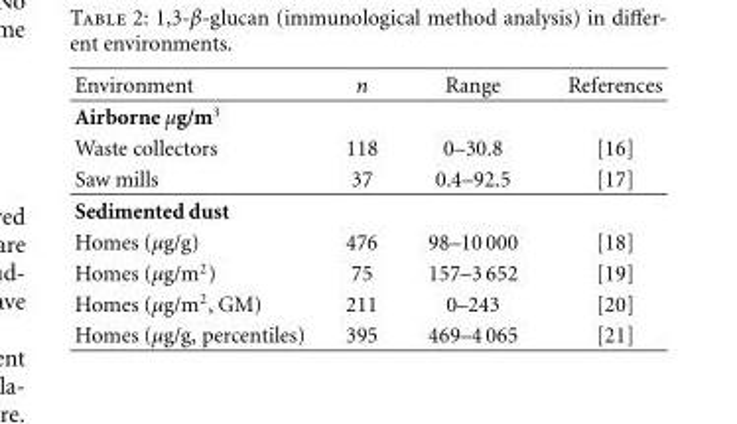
<table><thead><tr><td>Environment</td><td>n</td><td>Range</td><td>References</td></tr></thead><tbody><tr><td colspan="4">Airborne μg/m<sup>3</sup></td></tr><tr><td>Waste collectors</td><td>118</td><td>0–30.8</td><td>[16]</td></tr><tr><td>Saw mills</td><td>37</td><td>0.4–92.5</td><td>[17]</td></tr><tr><td colspan="4">Sedimented dust</td></tr><tr><td>Homes (μg/g)</td><td>476</td><td>98–10 000</td><td>[18]</td></tr><tr><td>Homes (μg/m<sup>2</sup>)</td><td>75</td><td>157–3 652</td><td>[19]</td></tr><tr><td>Homes (μg/m<sup>2</sup>, GM)</td><td>211</td><td>0–243</td><td>[20]</td></tr><tr><td>Homes (μg/g, percentiles)</td><td>395</td><td>469–4 065</td><td>[21]</td></tr></tbody></table>